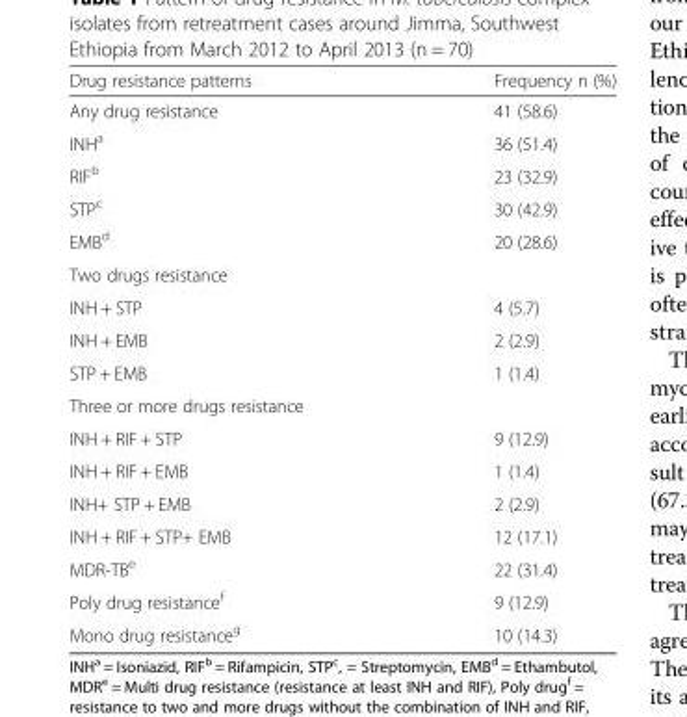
<table><thead><tr><td>Drug resistance patterns</td><td>Frequency n (%)</td></tr></thead><tbody><tr><td>Any drug resistance</td><td>41 (58.6)</td></tr><tr><td>INH<sup>a</sup></td><td>36 (51.4)</td></tr><tr><td>RIF<sup>b</sup></td><td>23 (32.9)</td></tr><tr><td>STP<sup>c</sup></td><td>30 (42.9)</td></tr><tr><td>EMB<sup>d</sup></td><td>20 (28.6)</td></tr><tr><td colspan="2">Two drugs resistance</td></tr><tr><td>INH + STP</td><td>4 (5.7)</td></tr><tr><td>INH + EMB</td><td>2 (2.9)</td></tr><tr><td>STP + EMB</td><td>1 (1.4)</td></tr><tr><td colspan="2">Three or more drugs resistance</td></tr><tr><td>INH + RIF + STP</td><td>9 (12.9)</td></tr><tr><td>INH + RIF + EMB</td><td>1 (1.4)</td></tr><tr><td>INH+ STP + EMB</td><td>2 (2.9)</td></tr><tr><td>INH + RIF + STP+ EMB</td><td>12 (17.1)</td></tr><tr><td>MDR-TB<sup>e</sup></td><td>22 (31.4)</td></tr><tr><td>Poly drug resistance<sup>f</sup></td><td>9 (12.9)</td></tr><tr><td>Mono drug resistance<sup>g</sup></td><td>10 (14.3)</td></tr></tbody></table>